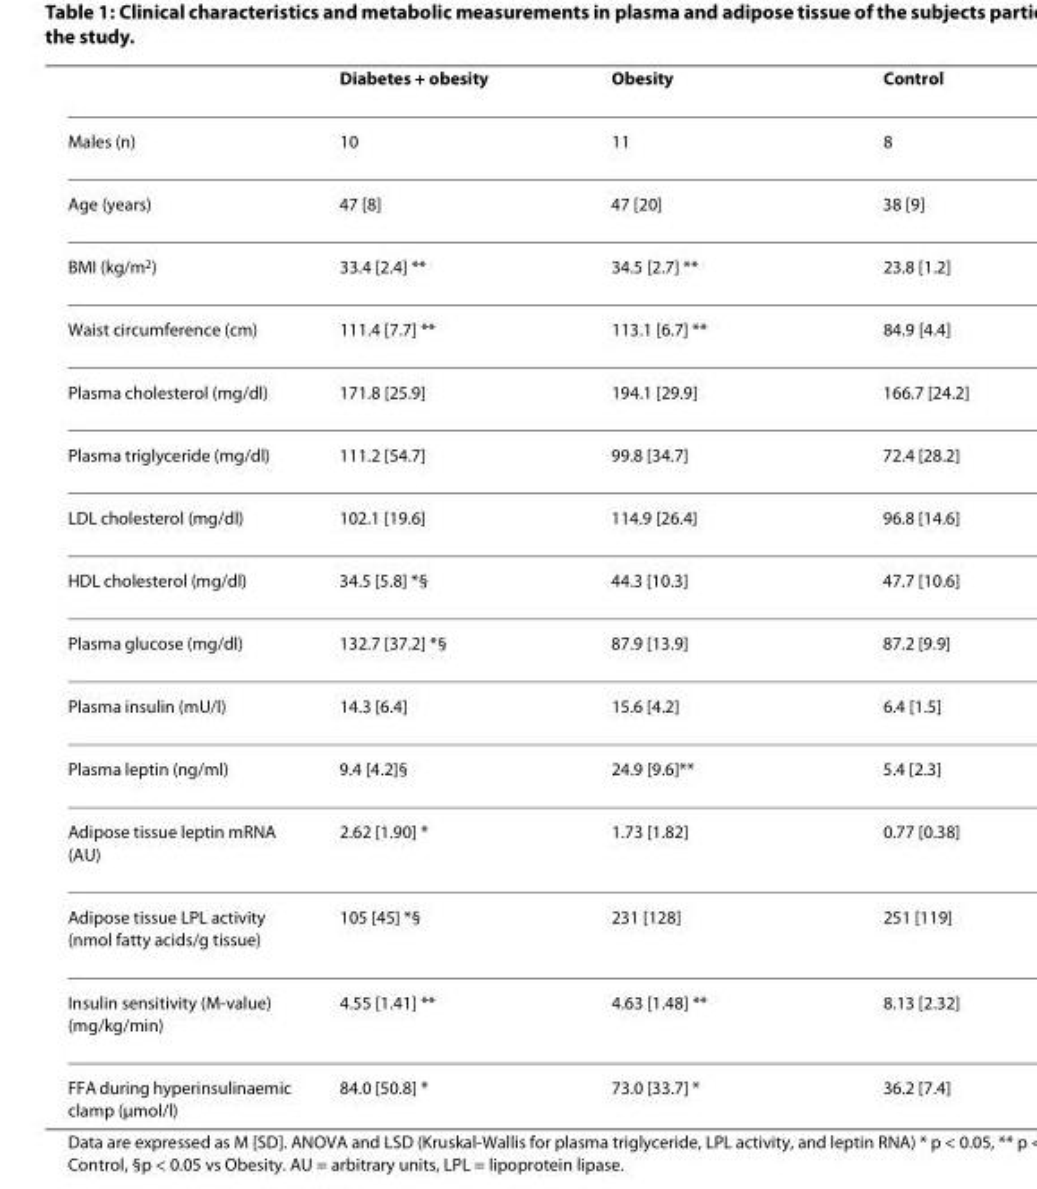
<table><thead><tr><td></td><td>Diabetes + obesity</td><td>Obesity</td><td>Control</td></tr></thead><tbody><tr><td>Males (n)</td><td>10</td><td>11</td><td>8</td></tr><tr><td>Age (years)</td><td>47 [8]</td><td>47 [20]</td><td>38 [9]</td></tr><tr><td>BMI (kg/m<sup>2</sup>)</td><td>33.4 [2.4] **</td><td>34.5 [2.7] **</td><td>23.8 [1.2]</td></tr><tr><td>Waist circumference (cm)</td><td>111.4 [7.7] **</td><td>113.1 [6.7] **</td><td>84.9 [4.4]</td></tr><tr><td>Plasma cholesterol (mg/dl)</td><td>171.8 [25.9]</td><td>194.1 [29.9]</td><td>166.7 [24.2]</td></tr><tr><td>Plasma triglyceride (mg/dl)</td><td>111.2 [54.7]</td><td>99.8 [34.7]</td><td>72.4 [28.2]</td></tr><tr><td>LDL cholesterol (mg/dl)</td><td>102.1 [19.6]</td><td>114.9 [26.4]</td><td>96.8 [14.6]</td></tr><tr><td>HDL cholesterol (mg/dl)</td><td>34.5 [5.8] *§</td><td>44.3 [10.3]</td><td>47.7 [10.6]</td></tr><tr><td>Plasma glucose (mg/dl)</td><td>132.7 [37.2] *§</td><td>87.9 [13.9]</td><td>87.2 [9.9]</td></tr><tr><td>Plasma insulin (mU/l)</td><td>14.3 [6.4]</td><td>15.6 [4.2]</td><td>6.4 [1.5]</td></tr><tr><td>Plasma leptin (ng/ml)</td><td>9.4 [4.2]§</td><td>24.9 [9.6]**</td><td>5.4 [2.3]</td></tr><tr><td>Adipose tissue leptin mRNA (AU)</td><td>2.62 [1.90] *</td><td>1.73 [1.82]</td><td>0.77 [0.38]</td></tr><tr><td>Adipose tissue LPL activity (nmol fatty acids/g tissue)</td><td>105 [45] *§</td><td>231 [128]</td><td>251 [119]</td></tr><tr><td>Insulin sensitivity (M-value) (mg/kg/min)</td><td>4.55 [1.41] **</td><td>4.63 [1.48] **</td><td>8.13 [2.32]</td></tr><tr><td>FFA during hyperinsulinaemic clamp (μmol/l)</td><td>84.0 [50.8] *</td><td>73.0 [33.7] *</td><td>36.2 [7.4]</td></tr></tbody></table>